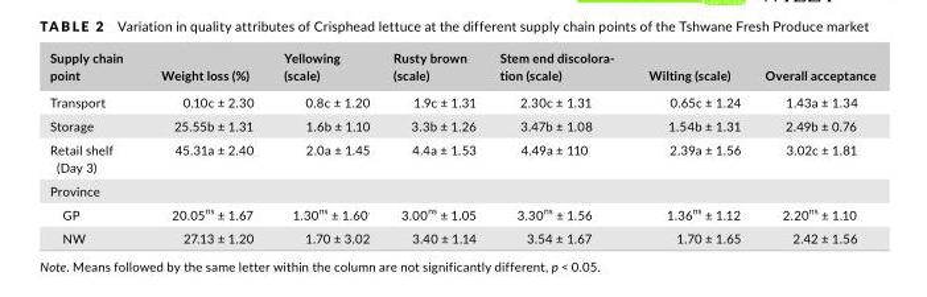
<table><thead><tr><td>Supply chain point</td><td>Weight loss (%)</td><td>Yellowing (scale)</td><td>Rusty brown (scale)</td><td>Stem end discolora- tion (scale)</td><td>Wilting (scale)</td><td>Overall acceptance</td></tr></thead><tbody><tr><td>Transport</td><td>0.10c ± 2.30</td><td>0.8c ± 1.20</td><td>1.9c ± 1.31</td><td>2.30c ± 1.31</td><td>0.65c ± 1.24</td><td>1.43a ± 1.34</td></tr><tr><td>Storage</td><td>25.55b ± 1.31</td><td>1.6b ± 1.10</td><td>3.3b ± 1.26</td><td>3.47b ± 1.08</td><td>1.54b ± 1.31</td><td>2.49b ± 0.76</td></tr><tr><td>Retail shelf (Day 3)</td><td>45.31a ± 2.40</td><td>2.0a ± 1.45</td><td>4.4a ± 1.53</td><td>4.49a ± 110</td><td>2.39a ± 1.56</td><td>3.02c ± 1.81</td></tr><tr><td colspan="7">Province</td></tr><tr><td>GP</td><td>20.05<sup>ns</sup> ± 1.67</td><td>1.30<sup>ns</sup> ± 1.60<sup>.</sup></td><td>3.00<sup>ns</sup> ± 1.05</td><td>3.30<sup>ns</sup> ± 1.56</td><td>1.36<sup>ns</sup> ± 1.12</td><td>2.20<sup>ns</sup> ± 1.10</td></tr><tr><td>NW</td><td>27.13 ± 1.20</td><td>1.70 ± 3.02</td><td>3.40 ± 1.14</td><td>3.54 ± 1.67</td><td>1.70 ± 1.65</td><td>2.42 ± 1.56</td></tr></tbody></table>